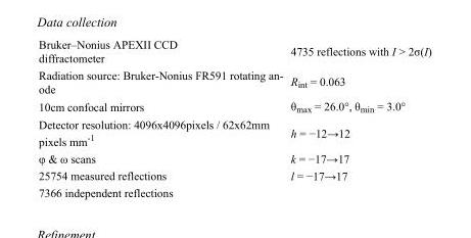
<table><tbody><tr><td>Bruker–Nonius APEXII CCD diffractometer</td><td>4735 reflections with I &gt; 2σ(I)</td></tr><tr><td>Radiation source: Bruker-Nonius FR591 rotating an- ode</td><td>R<sub>int</sub> = 0.063</td></tr><tr><td>10cm confocal mirrors</td><td>θ<sub>max</sub> = 26.0°, θ<sub>min</sub> = 3.0°</td></tr><tr><td>Detector resolution: 4096x4096pixels / 62x62mm pixels mm<sup>-1</sup></td><td>h = −12→12</td></tr><tr><td>φ &amp; ω scans</td><td>k = −17→17</td></tr><tr><td>25754 measured reflections</td><td>l = −17→17</td></tr><tr><td>7366 independent reflections</td><td></td></tr></tbody></table>